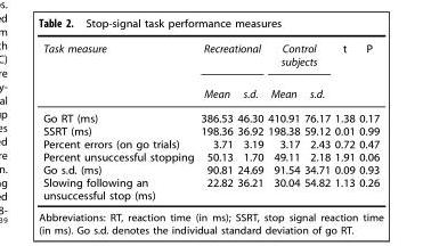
<table><thead><tr><td rowspan="2">Task measure</td><td colspan="2">Recreational</td><td colspan="2">Control subjects</td><td rowspan="2">t</td><td rowspan="2">P</td></tr><tr><td>Mean</td><td>s.d.</td><td>Mean</td><td>s.d.</td></tr></thead><tbody><tr><td>Go RT (ms)</td><td>386.53</td><td>46.30</td><td>410.91</td><td>76.17</td><td>1.38</td><td>0.17</td></tr><tr><td>SSRT (ms)</td><td>198.36</td><td>36.92</td><td>198.38</td><td>59.12</td><td>0.01</td><td>0.99</td></tr><tr><td>Percent errors (on go trials)</td><td>3.71</td><td>3.19</td><td>3.17</td><td>2.43</td><td>0.72</td><td>0.47</td></tr><tr><td>Percent unsuccessful stopping</td><td>50.13</td><td>1.70</td><td>49.11</td><td>2.18</td><td>1.91</td><td>0.06</td></tr><tr><td>Go s.d. (ms)</td><td>90.81</td><td>24.69</td><td>91.54</td><td>34.71</td><td>0.09</td><td>0.93</td></tr><tr><td>Slowing following an unsuccessful stop (ms)</td><td>22.82</td><td>36.21</td><td>30.04</td><td>54.82</td><td>1.13</td><td>0.26</td></tr></tbody></table>